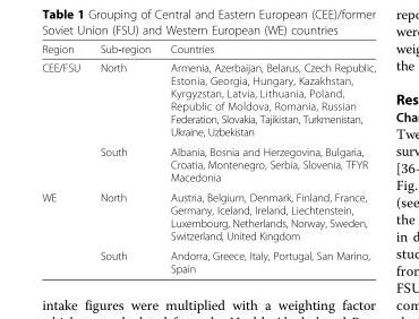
<table><thead><tr><td>Region</td><td>Sub-region</td><td>Countries</td></tr></thead><tbody><tr><td rowspan="2">CEE/FSU</td><td>North</td><td>Armenia, Azerbaijan, Belarus, Czech Republic, Estonia, Georgia, Hungary, Kazakhstan, Kyrgyzstan, Latvia, Lithuania, Poland, Republic of Moldova, Romania, Russian Federation, Slovakia, Tajikistan, Turkmenistan, Ukraine, Uzbekistan</td></tr><tr><td>South</td><td>Albania, Bosnia and Herzegovina, Bulgaria, Croatia, Montenegro, Serbia, Slovenia, TFYR Macedonia</td></tr><tr><td rowspan="2">WE</td><td>North</td><td>Austria, Belgium, Denmark, Finland, France, Germany, Iceland, Ireland, Liechtenstein, Luxembourg, Netherlands, Norway, Sweden, Switzerland, United Kingdom</td></tr><tr><td>South</td><td>Andorra, Greece, Italy, Portugal, San Marino, Spain</td></tr></tbody></table>